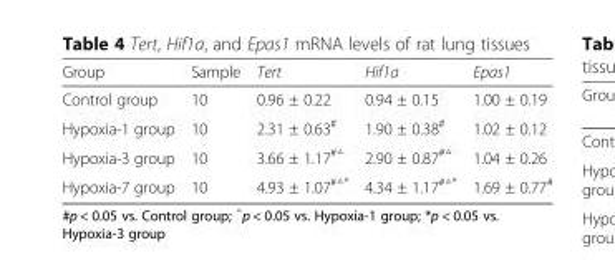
<table><thead><tr><td>Group</td><td>Sample</td><td>Tert</td><td>Hif1a</td><td>Epas1</td></tr></thead><tbody><tr><td>Control group</td><td>10</td><td>0.96 ± 0.22</td><td>0.94 ± 0.15</td><td>1.00 ± 0.19</td></tr><tr><td>Hypoxia-1 group</td><td>10</td><td>2.31 ± 0.63<sup>#</sup></td><td>1.90 ± 0.38<sup>#</sup></td><td>1.02 ± 0.12</td></tr><tr><td>Hypoxia-3 group</td><td>10</td><td>3.66 ± 1.17<sup>#△</sup></td><td>2.90 ± 0.87<sup>#△</sup></td><td>1.04 ± 0.26</td></tr><tr><td>Hypoxia-7 group</td><td>10</td><td>4.93 ± 1.07<sup>#△*</sup></td><td>4.34 ± 1.17<sup>#△*</sup></td><td>1.69 ± 0.77<sup>#</sup></td></tr></tbody></table>